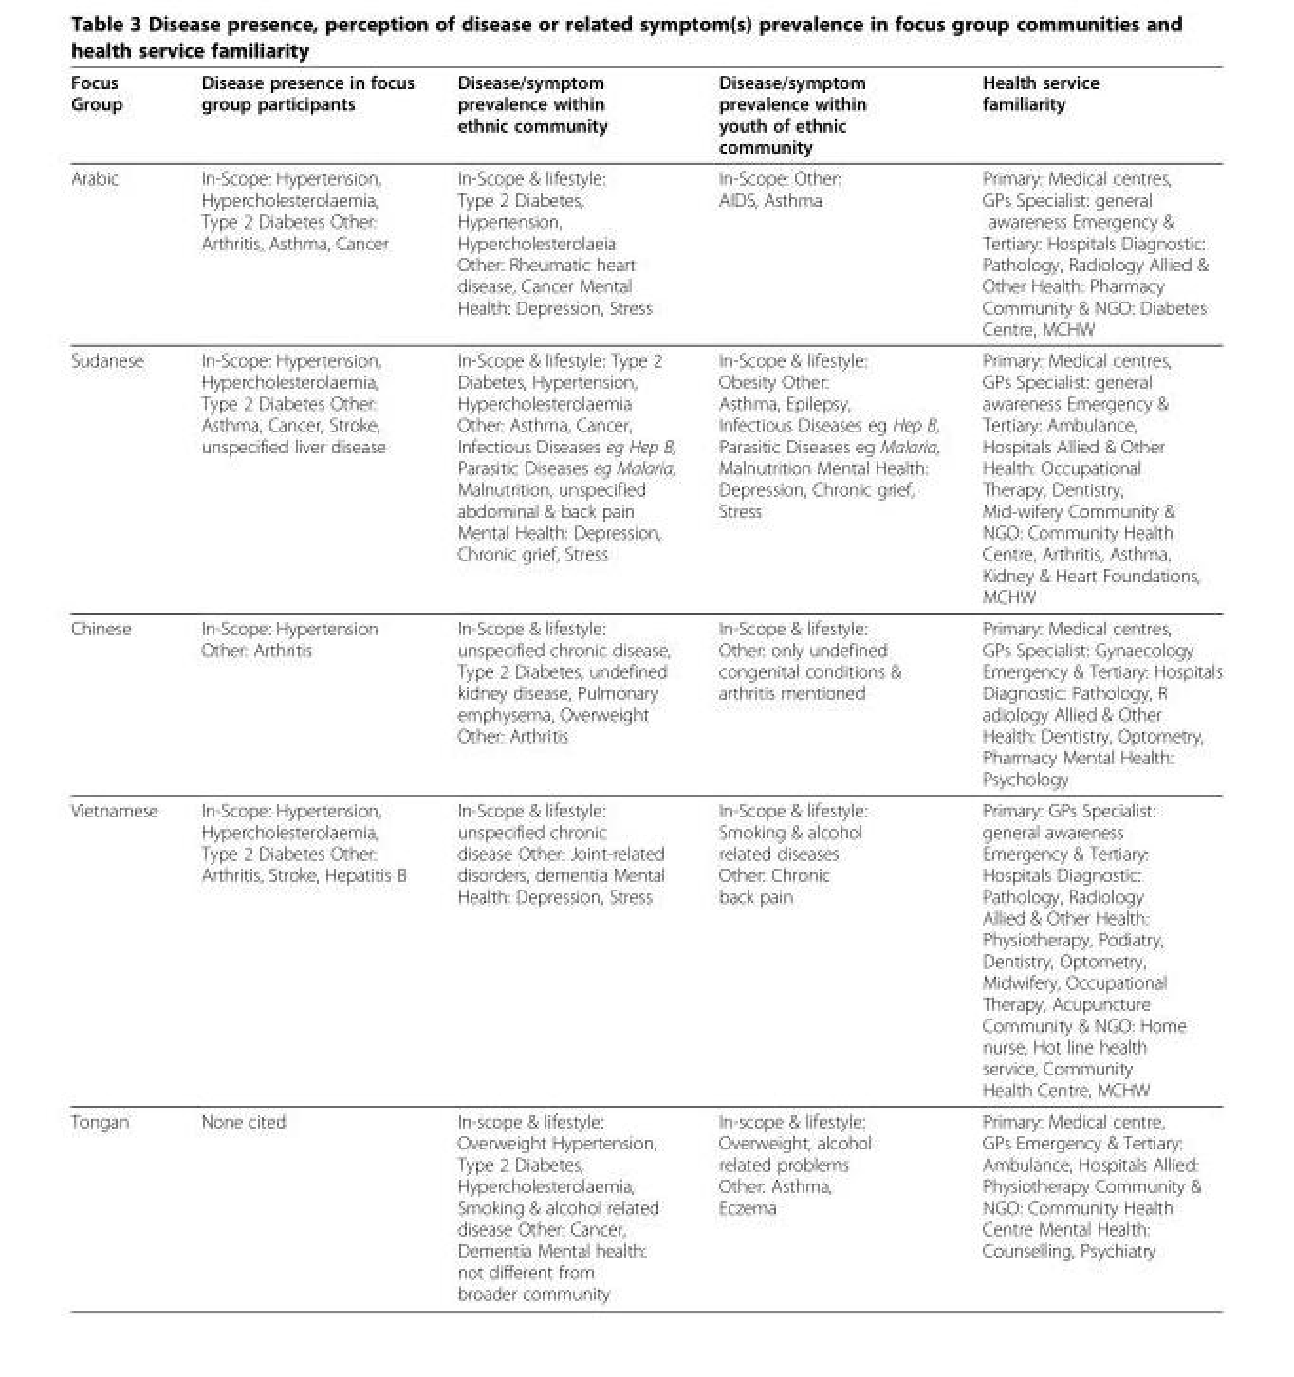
<table><thead><tr><td>Focus Group</td><td>Disease presence in focus group participants</td><td>Disease/symptom prevalence within ethnic community</td><td>Disease/symptom prevalence within youth of ethnic community</td><td>Health service familiarity</td></tr></thead><tbody><tr><td>Arabic</td><td>In-Scope: Hypertension, Hypercholesterolaemia, Type 2 Diabetes Other: Arthritis, Asthma, Cancer</td><td>In-Scope &amp; lifestyle: Type 2 Diabetes, Hypertension, Hypercholesterolaeia Other: Rheumatic heart disease, Cancer Mental Health: Depression, Stress</td><td>In-Scope: Other: AIDS, Asthma</td><td>Primary: Medical centres, GPs Specialist: general awareness Emergency &amp; Tertiary: Hospitals Diagnostic: Pathology, Radiology Allied &amp; Other Health: Pharmacy Community &amp; NGO: Diabetes Centre, MCHW</td></tr><tr><td>Sudanese</td><td>In-Scope: Hypertension, Hypercholesterolaemia, Type 2 Diabetes Other: Asthma, Cancer, Stroke, unspecified liver disease</td><td>In-Scope &amp; lifestyle: Type 2 Diabetes, Hypertension, Hypercholesterolaemia Other: Asthma, Cancer, Infectious Diseases eg Hep B, Parasitic Diseases eg Malaria, Malnutrition, unspecified abdominal &amp; back pain Mental Health: Depression, Chronic grief, Stress</td><td>In-Scope &amp; lifestyle: Obesity Other: Asthma, Epilepsy, Infectious Diseases eg Hep B, Parasitic Diseases eg Malaria, Malnutrition Mental Health: Depression, Chronic grief, Stress</td><td>Primary: Medical centres, GPs Specialist: general awareness Emergency &amp; Tertiary: Ambulance, Hospitals Allied &amp; Other Health: Occupational Therapy, Dentistry, Mid-wifery Community &amp; NGO: Community Health Centre, Arthritis, Asthma, Kidney &amp; Heart Foundations, MCHW</td></tr><tr><td>Chinese</td><td>In-Scope: Hypertension Other: Arthritis</td><td>In-Scope &amp; lifestyle: unspecified chronic disease, Type 2 Diabetes, undefined kidney disease, Pulmonary emphysema, Overweight Other: Arthritis</td><td>In-Scope &amp; lifestyle: Other: only undefined congenital conditions &amp; arthritis mentioned</td><td>Primary: Medical centres, GPs Specialist: Gynaecology Emergency &amp; Tertiary: Hospitals Diagnostic: Pathology, R adiology Allied &amp; Other Health: Dentistry, Optometry, Pharmacy Mental Health: Psychology</td></tr><tr><td>Vietnamese</td><td>In-Scope: Hypertension, Hypercholesterolaemia, Type 2 Diabetes Other: Arthritis, Stroke, Hepatitis B</td><td>In-Scope &amp; lifestyle: unspecified chronic disease Other: Joint-related disorders, dementia Mental Health: Depression, Stress</td><td>In-Scope &amp; lifestyle: Smoking &amp; alcohol related diseases Other: Chronic back pain</td><td>Primary: GPs Specialist: general awareness Emergency &amp; Tertiary: Hospitals Diagnostic: Pathology, Radiology Allied &amp; Other Health: Physiotherapy, Podiatry, Dentistry, Optometry, Midwifery, Occupational Therapy, Acupuncture Community &amp; NGO: Home nurse, Hot line health service, Community Health Centre, MCHW</td></tr><tr><td>Tongan</td><td>None cited</td><td>In-scope &amp; lifestyle: Overweight Hypertension, Type 2 Diabetes, Hypercholesterolaemia, Smoking &amp; alcohol related disease Other: Cancer, Dementia Mental health: not different from broader community</td><td>In-scope &amp; lifestyle: Overweight, alcohol related problems Other: Asthma, Eczema</td><td>Primary: Medical centre, GPs Emergency &amp; Tertiary: Ambulance, Hospitals Allied: Physiotherapy Community &amp; NGO: Community Health Centre Mental Health: Counselling, Psychiatry</td></tr></tbody></table>